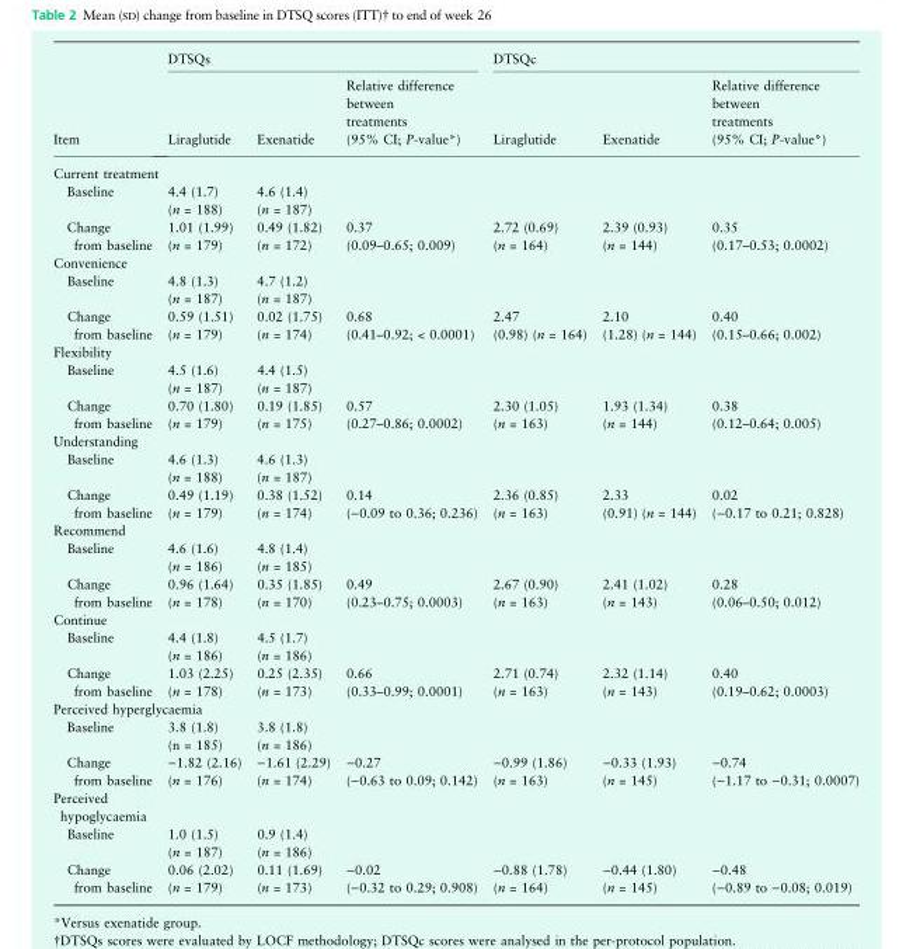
<table><thead><tr><td rowspan="2">Item</td><td colspan="3">DTSQs</td><td colspan="3">DTSQc</td></tr><tr><td>Liraglutide</td><td>Exenatide</td><td>Relative difference between treatments (95% CI; P-value*)</td><td>Liraglutide</td><td>Exenatide</td><td>Relative difference between treatments (95% CI; P-value*)</td></tr></thead><tbody><tr><td colspan="7">Current treatment</td></tr><tr><td>Baseline</td><td>4.4 (1.7) (n = 188)</td><td>4.6 (1.4) (n = 187)</td><td></td><td></td><td></td><td></td></tr><tr><td>Change from baseline</td><td>1.01 (1.99) (n = 179)</td><td>0.49 (1.82) (n = 172)</td><td>0.37 (0.09–0.65; 0.009)</td><td>2.72 (0.69) (n = 164)</td><td>2.39 (0.93) (n = 144)</td><td>0.35 (0.17–0.53; 0.0002)</td></tr><tr><td colspan="7">Convenience</td></tr><tr><td>Baseline</td><td>4.8 (1.3) (n = 187)</td><td>4.7 (1.2) (n = 187)</td><td></td><td></td><td></td><td></td></tr><tr><td>Change from baseline</td><td>0.59 (1.51) (n = 179)</td><td>0.02 (1.75) (n = 174)</td><td>0.68 (0.41–0.92; &lt; 0.0001)</td><td>2.47 (0.98) (n = 164)</td><td>2.10 (1.28) (n = 144)</td><td>0.40 (0.15–0.66; 0.002)</td></tr><tr><td colspan="7">Flexibility</td></tr><tr><td>Baseline</td><td>4.5 (1.6) (n = 187)</td><td>4.4 (1.5) (n = 187)</td><td></td><td></td><td></td><td></td></tr><tr><td>Change from baseline</td><td>0.70 (1.80) (n = 179)</td><td>0.19 (1.85) (n = 175)</td><td>0.57 (0.27–0.86; 0.0002)</td><td>2.30 (1.05) (n = 163)</td><td>1.93 (1.34) (n = 144)</td><td>0.38 (0.12–0.64; 0.005)</td></tr><tr><td colspan="7">Understanding</td></tr><tr><td>Baseline</td><td>4.6 (1.3) (n = 188)</td><td>4.6 (1.3) (n = 187)</td><td></td><td></td><td></td><td></td></tr><tr><td>Change from baseline</td><td>0.49 (1.19) (n = 179)</td><td>0.38 (1.52) (n = 174)</td><td>0.14 (−0.09 to 0.36; 0.236)</td><td>2.36 (0.85) (n = 163)</td><td>2.33 (0.91) (n = 144)</td><td>0.02 (−0.17 to 0.21; 0.828)</td></tr><tr><td colspan="7">Recommend</td></tr><tr><td>Baseline</td><td>4.6 (1.6) (n = 186)</td><td>4.8 (1.4) (n = 185)</td><td></td><td></td><td></td><td></td></tr><tr><td>Change from baseline</td><td>0.96 (1.64) (n = 178)</td><td>0.35 (1.85) (n = 170)</td><td>0.49 (0.23–0.75; 0.0003)</td><td>2.67 (0.90) (n = 163)</td><td>2.41 (1.02) (n = 143)</td><td>0.28 (0.06–0.50; 0.012)</td></tr><tr><td colspan="7">Continue</td></tr><tr><td>Baseline</td><td>4.4 (1.8) (n = 186)</td><td>4.5 (1.7) (n = 186)</td><td></td><td></td><td></td><td></td></tr><tr><td>Change from baseline</td><td>1.03 (2.25) (n = 178)</td><td>0.25 (2.35) (n = 173)</td><td>0.66 (0.33–0.99; 0.0001)</td><td>2.71 (0.74) (n = 163)</td><td>2.32 (1.14) (n = 143)</td><td>0.40 (0.19–0.62; 0.0003)</td></tr><tr><td colspan="7">Perceived hyperglycaemia</td></tr><tr><td>Baseline</td><td>3.8 (1.8) (n = 185)</td><td>3.8 (1.8) (n = 186)</td><td></td><td></td><td></td><td></td></tr><tr><td>Change from baseline</td><td>−1.82 (2.16) (n = 176)</td><td>−1.61 (2.29) (n = 174)</td><td>−0.27 (−0.63 to 0.09; 0.142)</td><td>−0.99 (1.86) (n = 163)</td><td>−0.33 (1.93) (n = 145)</td><td>−0.74 (−1.17 to −0.31; 0.0007)</td></tr><tr><td colspan="7">Perceived hypoglycaemia</td></tr><tr><td>Baseline</td><td>1.0 (1.5) (n = 187)</td><td>0.9 (1.4) (n = 186)</td><td></td><td></td><td></td><td></td></tr><tr><td>Change from baseline</td><td>0.06 (2.02) (n = 179)</td><td>0.11 (1.69) (n = 173)</td><td>−0.02 (−0.32 to 0.29; 0.908)</td><td>−0.88 (1.78) (n = 164)</td><td>−0.44 (1.80) (n = 145)</td><td>−0.48 (−0.89 to −0.08; 0.019)</td></tr></tbody></table>